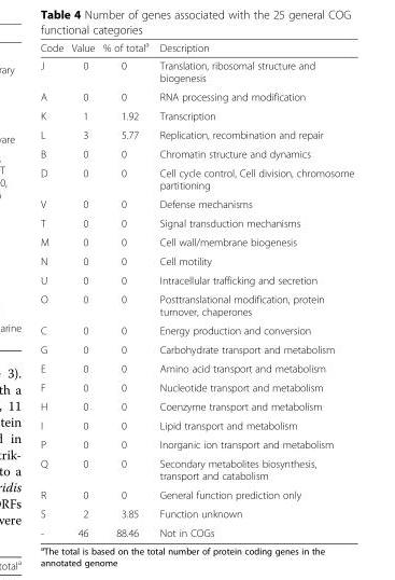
<table><thead><tr><td>Code</td><td>Value</td><td>% of total<sup>a</sup></td><td>Description</td></tr></thead><tbody><tr><td>J</td><td>0</td><td>0</td><td>Translation, ribosomal structure and biogenesis</td></tr><tr><td>A</td><td>0</td><td>0</td><td>RNA processing and modification</td></tr><tr><td>K</td><td>1</td><td>1.92</td><td>Transcription</td></tr><tr><td>L</td><td>3</td><td>5.77</td><td>Replication, recombination and repair</td></tr><tr><td>B</td><td>0</td><td>0</td><td>Chromatin structure and dynamics</td></tr><tr><td>D</td><td>0</td><td>0</td><td>Cell cycle control, Cell division, chromosome partitioning</td></tr><tr><td>V</td><td>0</td><td>0</td><td>Defense mechanisms</td></tr><tr><td>T</td><td>0</td><td>0</td><td>Signal transduction mechanisms</td></tr><tr><td>M</td><td>0</td><td>0</td><td>Cell wall/membrane biogenesis</td></tr><tr><td>N</td><td>0</td><td>0</td><td>Cell motility</td></tr><tr><td>U</td><td>0</td><td>0</td><td>Intracellular trafficking and secretion</td></tr><tr><td>O</td><td>0</td><td>0</td><td>Posttranslational modification, protein turnover, chaperones</td></tr><tr><td>C</td><td>0</td><td>0</td><td>Energy production and conversion</td></tr><tr><td>G</td><td>0</td><td>0</td><td>Carbohydrate transport and metabolism</td></tr><tr><td>E</td><td>0</td><td>0</td><td>Amino acid transport and metabolism</td></tr><tr><td>F</td><td>0</td><td>0</td><td>Nucleotide transport and metabolism</td></tr><tr><td>H</td><td>0</td><td>0</td><td>Coenzyme transport and metabolism</td></tr><tr><td>I</td><td>0</td><td>0</td><td>Lipid transport and metabolism</td></tr><tr><td>P</td><td>0</td><td>0</td><td>Inorganic ion transport and metabolism</td></tr><tr><td>Q</td><td>0</td><td>0</td><td>Secondary metabolites biosynthesis, transport and catabolism</td></tr><tr><td>R</td><td>0</td><td>0</td><td>General function prediction only</td></tr><tr><td>S</td><td>2</td><td>3.85</td><td>Function unknown</td></tr><tr><td>-</td><td>46</td><td>88.46</td><td>Not in COGs</td></tr></tbody></table>